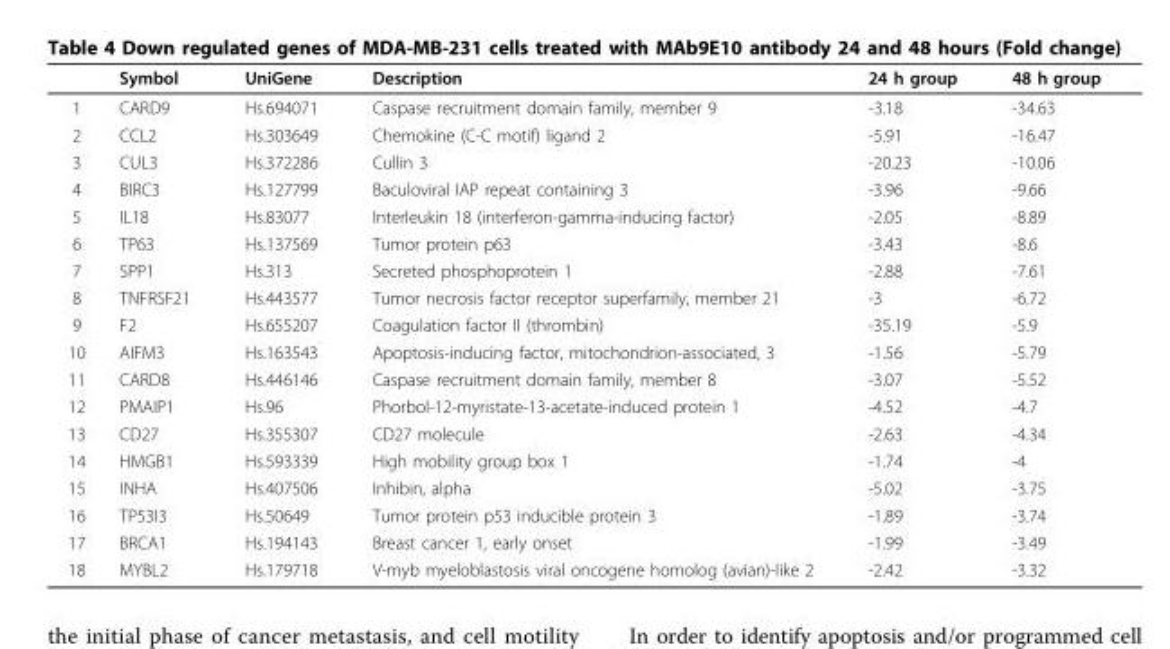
<table><thead><tr><td></td><td>Symbol</td><td>UniGene</td><td>Description</td><td>24 h group</td><td>48 h group</td></tr></thead><tbody><tr><td>1</td><td>CARD9</td><td>Hs.694071</td><td>Caspase recruitment domain family, member 9</td><td>-3.18</td><td>-34.63</td></tr><tr><td>2</td><td>CCL2</td><td>Hs.303649</td><td>Chemokine (C-C motif) ligand 2</td><td>-5.91</td><td>-16.47</td></tr><tr><td>3</td><td>CUL3</td><td>Hs.372286</td><td>Cullin 3</td><td>-20.23</td><td>-10.06</td></tr><tr><td>4</td><td>BIRC3</td><td>Hs.127799</td><td>Baculoviral IAP repeat containing 3</td><td>-3.96</td><td>-9.66</td></tr><tr><td>5</td><td>IL18</td><td>Hs.83077</td><td>Interleukin 18 (interferon-gamma-inducing factor)</td><td>-2.05</td><td>-8.89</td></tr><tr><td>6</td><td>TP63</td><td>Hs.137569</td><td>Tumor protein p63</td><td>-3.43</td><td>-8.6</td></tr><tr><td>7</td><td>SPP1</td><td>Hs.313</td><td>Secreted phosphoprotein 1</td><td>-2.88</td><td>-7.61</td></tr><tr><td>8</td><td>TNFRSF21</td><td>Hs.443577</td><td>Tumor necrosis factor receptor superfamily, member 21</td><td>-3</td><td>-6.72</td></tr><tr><td>9</td><td>F2</td><td>Hs.655207</td><td>Coagulation factor II (thrombin)</td><td>-35.19</td><td>-5.9</td></tr><tr><td>10</td><td>AIFM3</td><td>Hs.163543</td><td>Apoptosis-inducing factor, mitochondrion-associated, 3</td><td>-1.56</td><td>-5.79</td></tr><tr><td>11</td><td>CARD8</td><td>Hs.446146</td><td>Caspase recruitment domain family, member 8</td><td>-3.07</td><td>-5.52</td></tr><tr><td>12</td><td>PMAIP1</td><td>Hs.96</td><td>Phorbol-12-myristate-13-acetate-induced protein 1</td><td>-4.52</td><td>-4.7</td></tr><tr><td>13</td><td>CD27</td><td>Hs.355307</td><td>CD27 molecule</td><td>-2.63</td><td>-4.34</td></tr><tr><td>14</td><td>HMGB1</td><td>Hs.593339</td><td>High mobility group box 1</td><td>-1.74</td><td>-4</td></tr><tr><td>15</td><td>INHA</td><td>Hs.407506</td><td>Inhibin, alpha</td><td>-5.02</td><td>-3.75</td></tr><tr><td>16</td><td>TP53I3</td><td>Hs.50649</td><td>Tumor protein p53 inducible protein 3</td><td>-1.89</td><td>-3.74</td></tr><tr><td>17</td><td>BRCA1</td><td>Hs.194143</td><td>Breast cancer 1, early onset</td><td>-1.99</td><td>-3.49</td></tr><tr><td>18</td><td>MYBL2</td><td>Hs.179718</td><td>V-myb myeloblastosis viral oncogene homolog (avian)-like 2</td><td>-2.42</td><td>-3.32</td></tr></tbody></table>